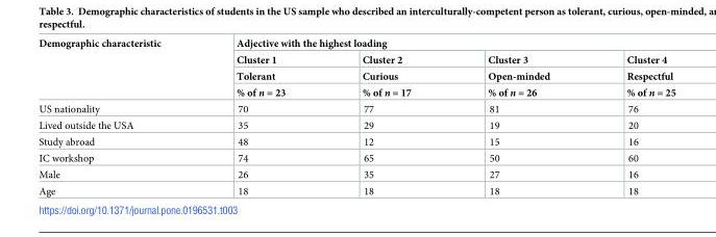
<table><thead><tr><td rowspan="4">Demographic characteristic</td><td colspan="4">Adjective with the highest loading</td></tr><tr><td rowspan="3">Cluster 1 Tolerant % of n = 23</td><td rowspan="3">Cluster 2 Curious % of n = 17</td><td rowspan="3">Cluster 3 Open-minded % of n = 26</td><td rowspan="3">Cluster 4 Respectful % of n = 25</td></tr><tr></tr><tr></tr></thead><tbody><tr><td>US nationality</td><td>70</td><td>77</td><td>81</td><td>76</td></tr><tr><td>Lived outside the USA</td><td>35</td><td>29</td><td>19</td><td>20</td></tr><tr><td>Study abroad</td><td>48</td><td>12</td><td>15</td><td>16</td></tr><tr><td>IC workshop</td><td>74</td><td>65</td><td>50</td><td>60</td></tr><tr><td>Male</td><td>26</td><td>35</td><td>27</td><td>16</td></tr><tr><td>Age</td><td>18</td><td>18</td><td>18</td><td>18</td></tr></tbody></table>